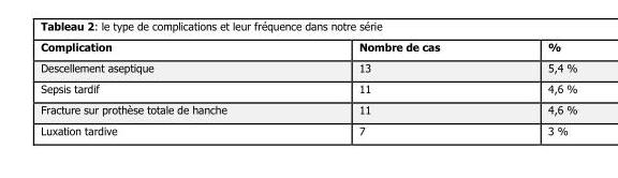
<table><thead><tr><td>Complication</td><td>Nombre de cas</td><td>%</td></tr></thead><tbody><tr><td>Descellement aseptique</td><td>13</td><td>5,4 %</td></tr><tr><td>Sepsis tardif</td><td>11</td><td>4,6 %</td></tr><tr><td>Fracture sur prothèse totale de hanche</td><td>11</td><td>4,6 %</td></tr><tr><td>Luxation tardive</td><td>7</td><td>3 %</td></tr></tbody></table>